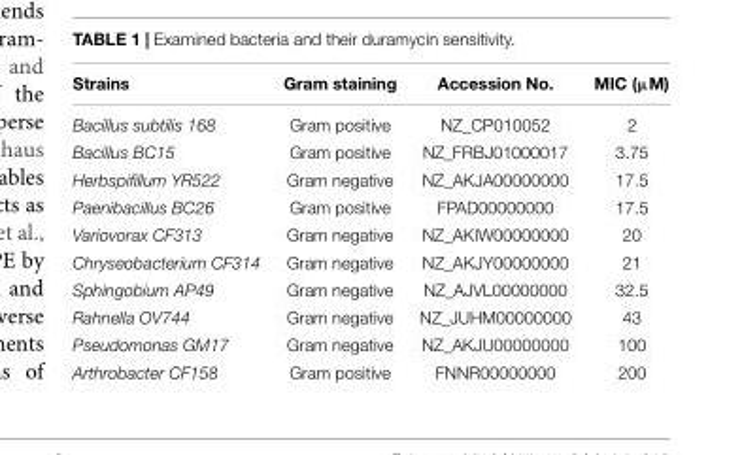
<table><thead><tr><td>Strains</td><td>Gram staining</td><td>Accession No.</td><td>MIC (µM)</td></tr></thead><tbody><tr><td>Bacillus subtilis 168</td><td>Gram positive</td><td>NZ_CP010052</td><td>2</td></tr><tr><td>Bacillus BC15</td><td>Gram positive</td><td>NZ_FRBJ01000017</td><td>3.75</td></tr><tr><td>Herbspifillum YR522</td><td>Gram negative</td><td>NZ_AKJA00000000</td><td>17.5</td></tr><tr><td>Paenibacillus BC26</td><td>Gram positive</td><td>FPAD00000000</td><td>17.5</td></tr><tr><td>Variovorax CF313</td><td>Gram negative</td><td>NZ_AKIW00000000</td><td>20</td></tr><tr><td>Chryseobacterium CF314</td><td>Gram negative</td><td>NZ_AKJY00000000</td><td>21</td></tr><tr><td>Sphingobium AP49</td><td>Gram negative</td><td>NZ_AJVL00000000</td><td>32.5</td></tr><tr><td>Rahnella OV744</td><td>Gram negative</td><td>NZ_JUHM00000000</td><td>43</td></tr><tr><td>Pseudomonas GM17</td><td>Gram negative</td><td>NZ_AKJU00000000</td><td>100</td></tr><tr><td>Arthrobacter CF158</td><td>Gram positive</td><td>FNNR00000000</td><td>200</td></tr></tbody></table>